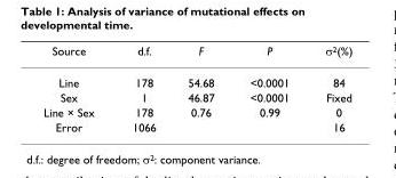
<table><thead><tr><td>Source</td><td>d.f.</td><td>F</td><td>P</td><td>σ<sup>2</sup>(%)</td></tr></thead><tbody><tr><td>Line</td><td>178</td><td>54.68</td><td>&lt;0.0001</td><td>84</td></tr><tr><td>Sex</td><td>1</td><td>46.87</td><td>&lt;0.0001</td><td>Fixed</td></tr><tr><td>Line × Sex</td><td>178</td><td>0.76</td><td>0.99</td><td>0</td></tr><tr><td>Error</td><td>1066</td><td></td><td></td><td>16</td></tr></tbody></table>